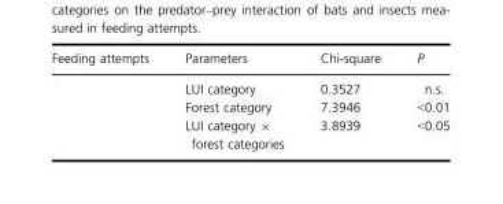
<table><thead><tr><td>Feeding attempts</td><td>Parameters</td><td>Chi-square</td><td>P</td></tr></thead><tbody><tr><td></td><td>LUI category</td><td>0.3527</td><td>n.s.</td></tr><tr><td></td><td>Forest category</td><td>7.3946</td><td>&lt;0.01</td></tr><tr><td></td><td>LUI category × forest categories</td><td>3.8939</td><td>&lt;0.05</td></tr></tbody></table>